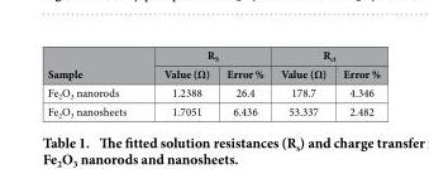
<table><thead><tr><td rowspan="2">Sample</td><td colspan="2">R<sub>S</sub></td><td colspan="2">R<sub>ct</sub></td></tr><tr><td>Value (Ω)</td><td>Error %</td><td>Value (Ω)</td><td>Error %</td></tr></thead><tbody><tr><td>Fe<sub>2</sub>O<sub>3</sub> nanorods</td><td>1.2388</td><td>26.4</td><td>178.7</td><td>4.346</td></tr><tr><td>Fe<sub>2</sub>O<sub>3</sub> nanosheets</td><td>1.7051</td><td>6.436</td><td>53.337</td><td>2.482</td></tr></tbody></table>